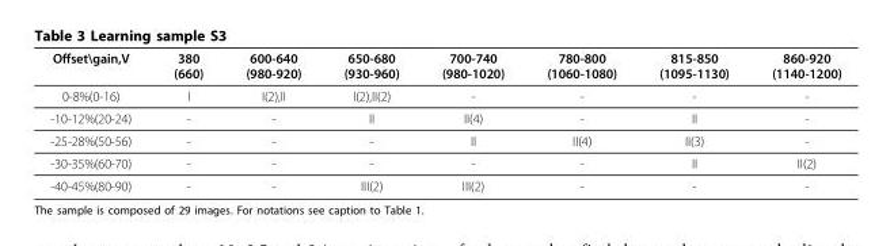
<table><thead><tr><td>Offset\gain,V</td><td>380 (660)</td><td>600-640 (980-920)</td><td>650-680 (930-960)</td><td>700-740 (980-1020)</td><td>780-800 (1060-1080)</td><td>815-850 (1095-1130)</td><td>860-920 (1140-1200)</td></tr></thead><tbody><tr><td>0-8%(0-16)</td><td>I</td><td>I(2),II</td><td>I(2),II(2)</td><td>-</td><td>-</td><td>-</td><td>-</td></tr><tr><td>-10-12%(20-24)</td><td>-</td><td>-</td><td>II</td><td>II(4)</td><td>-</td><td>II</td><td>-</td></tr><tr><td>-25-28%(50-56)</td><td>-</td><td>-</td><td>-</td><td>II</td><td>II(4)</td><td>II(3)</td><td>-</td></tr><tr><td>-30-35%(60-70)</td><td>-</td><td>-</td><td>-</td><td>-</td><td>-</td><td>II</td><td>II(2)</td></tr><tr><td>-40-45%(80-90)</td><td>-</td><td>-</td><td>III(2)</td><td>III(2)</td><td>-</td><td>-</td><td>-</td></tr></tbody></table>